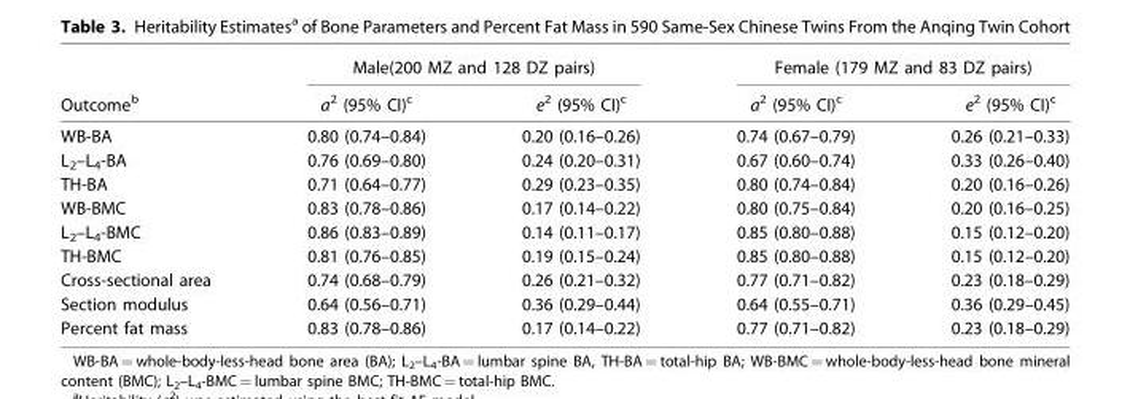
<table><thead><tr><td rowspan="2">Outcome<sup>b</sup></td><td colspan="2">Male(200 MZ and 128 DZ pairs)</td><td colspan="2">Female (179 MZ and 83 DZ pairs)</td></tr><tr><td>a<sup>2</sup> (95% CI)<sup>c</sup></td><td>e<sup>2</sup> (95% CI)<sup>c</sup></td><td>a<sup>2</sup> (95% CI)<sup>c</sup></td><td>e<sup>2</sup> (95% CI)<sup>c</sup></td></tr></thead><tbody><tr><td>WB-BA</td><td>0.80 (0.74–0.84)</td><td>0.20 (0.16–0.26)</td><td>0.74 (0.67–0.79)</td><td>0.26 (0.21–0.33)</td></tr><tr><td>L<sub>2</sub>–L<sub>4</sub>-BA</td><td>0.76 (0.69–0.80)</td><td>0.24 (0.20–0.31)</td><td>0.67 (0.60–0.74)</td><td>0.33 (0.26–0.40)</td></tr><tr><td>TH-BA</td><td>0.71 (0.64–0.77)</td><td>0.29 (0.23–0.35)</td><td>0.80 (0.74–0.84)</td><td>0.20 (0.16–0.26)</td></tr><tr><td>WB-BMC</td><td>0.83 (0.78–0.86)</td><td>0.17 (0.14–0.22)</td><td>0.80 (0.75–0.84)</td><td>0.20 (0.16–0.25)</td></tr><tr><td>L<sub>2</sub>–L<sub>4</sub>-BMC</td><td>0.86 (0.83–0.89)</td><td>0.14 (0.11–0.17)</td><td>0.85 (0.80–0.88)</td><td>0.15 (0.12–0.20)</td></tr><tr><td>TH-BMC</td><td>0.81 (0.76–0.85)</td><td>0.19 (0.15–0.24)</td><td>0.85 (0.80–0.88)</td><td>0.15 (0.12–0.20)</td></tr><tr><td>Cross-sectional area</td><td>0.74 (0.68–0.79)</td><td>0.26 (0.21–0.32)</td><td>0.77 (0.71–0.82)</td><td>0.23 (0.18–0.29)</td></tr><tr><td>Section modulus</td><td>0.64 (0.56–0.71)</td><td>0.36 (0.29–0.44)</td><td>0.64 (0.55–0.71)</td><td>0.36 (0.29–0.45)</td></tr><tr><td>Percent fat mass</td><td>0.83 (0.78–0.86)</td><td>0.17 (0.14–0.22)</td><td>0.77 (0.71–0.82)</td><td>0.23 (0.18–0.29)</td></tr></tbody></table>